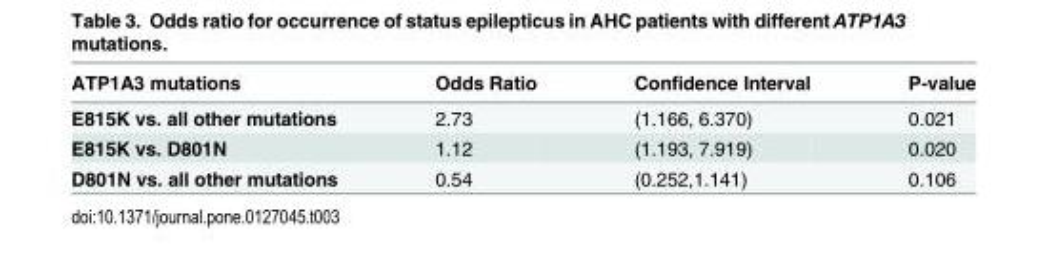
<table><thead><tr><td>ATP1A3 mutations</td><td>Odds Ratio</td><td>Confidence Interval</td><td>P-value</td></tr></thead><tbody><tr><td>E815K vs. all other mutations</td><td>2.73</td><td>(1.166, 6.370)</td><td>0.021</td></tr><tr><td>E815K vs. D801N</td><td>1.12</td><td>(1.193, 7.919)</td><td>0.020</td></tr><tr><td>D801N vs. all other mutations</td><td>0.54</td><td>(0.252,1.141)</td><td>0.106</td></tr></tbody></table>